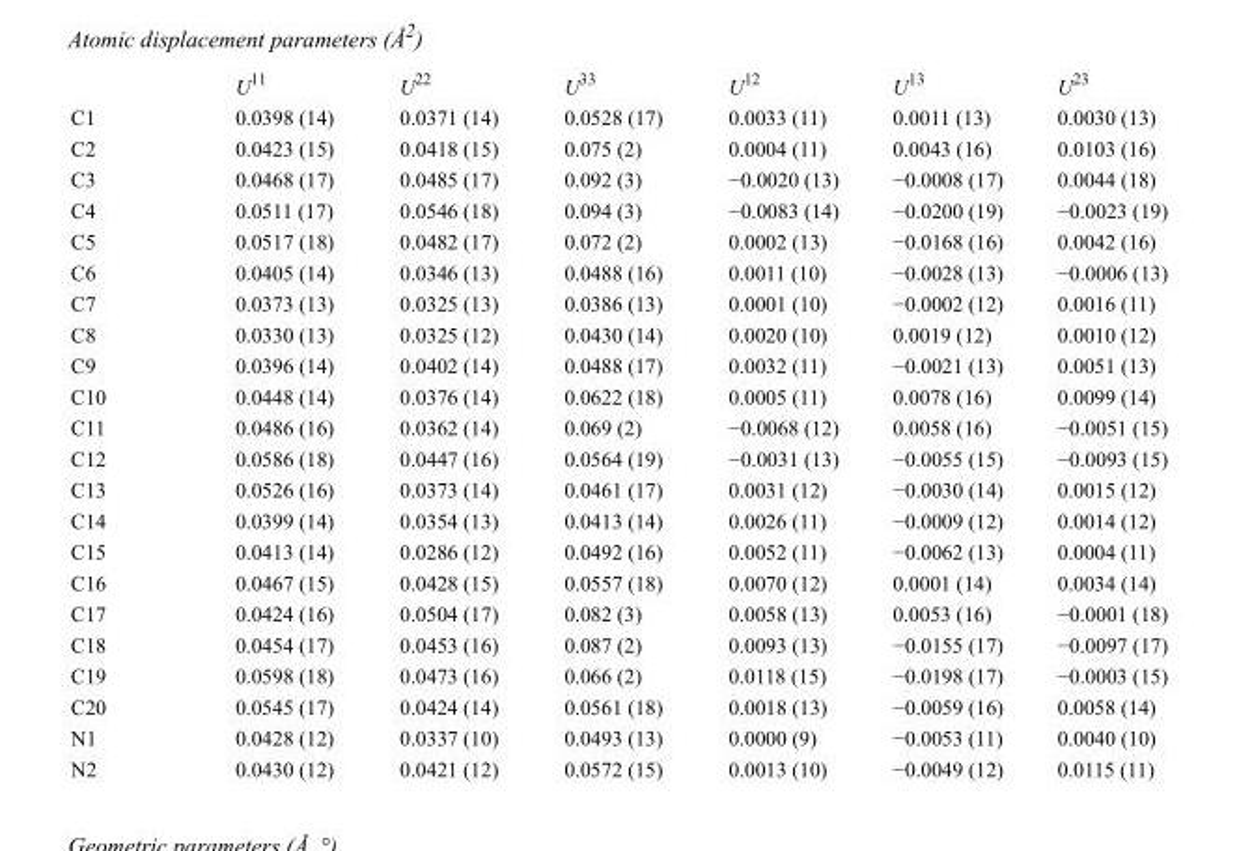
<table><thead><tr><td></td><td>U<sup>11</sup></td><td>U<sup>22</sup></td><td>U<sup>33</sup></td><td>U<sup>12</sup></td><td>U<sup>13</sup></td><td>U<sup>23</sup></td></tr></thead><tbody><tr><td>C1</td><td>0.0398 (14)</td><td>0.0371 (14)</td><td>0.0528 (17)</td><td>0.0033 (11)</td><td>0.0011 (13)</td><td>0.0030 (13)</td></tr><tr><td>C2</td><td>0.0423 (15)</td><td>0.0418 (15)</td><td>0.075 (2)</td><td>0.0004 (11)</td><td>0.0043 (16)</td><td>0.0103 (16)</td></tr><tr><td>C3</td><td>0.0468 (17)</td><td>0.0485 (17)</td><td>0.092 (3)</td><td>−0.0020 (13)</td><td>−0.0008 (17)</td><td>0.0044 (18)</td></tr><tr><td>C4</td><td>0.0511 (17)</td><td>0.0546 (18)</td><td>0.094 (3)</td><td>−0.0083 (14)</td><td>−0.0200 (19)</td><td>−0.0023 (19)</td></tr><tr><td>C5</td><td>0.0517 (18)</td><td>0.0482 (17)</td><td>0.072 (2)</td><td>0.0002 (13)</td><td>−0.0168 (16)</td><td>0.0042 (16)</td></tr><tr><td>C6</td><td>0.0405 (14)</td><td>0.0346 (13)</td><td>0.0488 (16)</td><td>0.0011 (10)</td><td>−0.0028 (13)</td><td>−0.0006 (13)</td></tr><tr><td>C7</td><td>0.0373 (13)</td><td>0.0325 (13)</td><td>0.0386 (13)</td><td>0.0001 (10)</td><td>−0.0002 (12)</td><td>0.0016 (11)</td></tr><tr><td>C8</td><td>0.0330 (13)</td><td>0.0325 (12)</td><td>0.0430 (14)</td><td>0.0020 (10)</td><td>0.0019 (12)</td><td>0.0010 (12)</td></tr><tr><td>C9</td><td>0.0396 (14)</td><td>0.0402 (14)</td><td>0.0488 (17)</td><td>0.0032 (11)</td><td>−0.0021 (13)</td><td>0.0051 (13)</td></tr><tr><td>C10</td><td>0.0448 (14)</td><td>0.0376 (14)</td><td>0.0622 (18)</td><td>0.0005 (11)</td><td>0.0078 (16)</td><td>0.0099 (14)</td></tr><tr><td>C11</td><td>0.0486 (16)</td><td>0.0362 (14)</td><td>0.069 (2)</td><td>−0.0068 (12)</td><td>0.0058 (16)</td><td>−0.0051 (15)</td></tr><tr><td>C12</td><td>0.0586 (18)</td><td>0.0447 (16)</td><td>0.0564 (19)</td><td>−0.0031 (13)</td><td>−0.0055 (15)</td><td>−0.0093 (15)</td></tr><tr><td>C13</td><td>0.0526 (16)</td><td>0.0373 (14)</td><td>0.0461 (17)</td><td>0.0031 (12)</td><td>−0.0030 (14)</td><td>0.0015 (12)</td></tr><tr><td>C14</td><td>0.0399 (14)</td><td>0.0354 (13)</td><td>0.0413 (14)</td><td>0.0026 (11)</td><td>−0.0009 (12)</td><td>0.0014 (12)</td></tr><tr><td>C15</td><td>0.0413 (14)</td><td>0.0286 (12)</td><td>0.0492 (16)</td><td>0.0052 (11)</td><td>−0.0062 (13)</td><td>0.0004 (11)</td></tr><tr><td>C16</td><td>0.0467 (15)</td><td>0.0428 (15)</td><td>0.0557 (18)</td><td>0.0070 (12)</td><td>0.0001 (14)</td><td>0.0034 (14)</td></tr><tr><td>C17</td><td>0.0424 (16)</td><td>0.0504 (17)</td><td>0.082 (3)</td><td>0.0058 (13)</td><td>0.0053 (16)</td><td>−0.0001 (18)</td></tr><tr><td>C18</td><td>0.0454 (17)</td><td>0.0453 (16)</td><td>0.087 (2)</td><td>0.0093 (13)</td><td>−0.0155 (17)</td><td>−0.0097 (17)</td></tr><tr><td>C19</td><td>0.0598 (18)</td><td>0.0473 (16)</td><td>0.066 (2)</td><td>0.0118 (15)</td><td>−0.0198 (17)</td><td>−0.0003 (15)</td></tr><tr><td>C20</td><td>0.0545 (17)</td><td>0.0424 (14)</td><td>0.0561 (18)</td><td>0.0018 (13)</td><td>−0.0059 (16)</td><td>0.0058 (14)</td></tr><tr><td>N1</td><td>0.0428 (12)</td><td>0.0337 (10)</td><td>0.0493 (13)</td><td>0.0000 (9)</td><td>−0.0053 (11)</td><td>0.0040 (10)</td></tr><tr><td>N2</td><td>0.0430 (12)</td><td>0.0421 (12)</td><td>0.0572 (15)</td><td>0.0013 (10)</td><td>−0.0049 (12)</td><td>0.0115 (11)</td></tr></tbody></table>